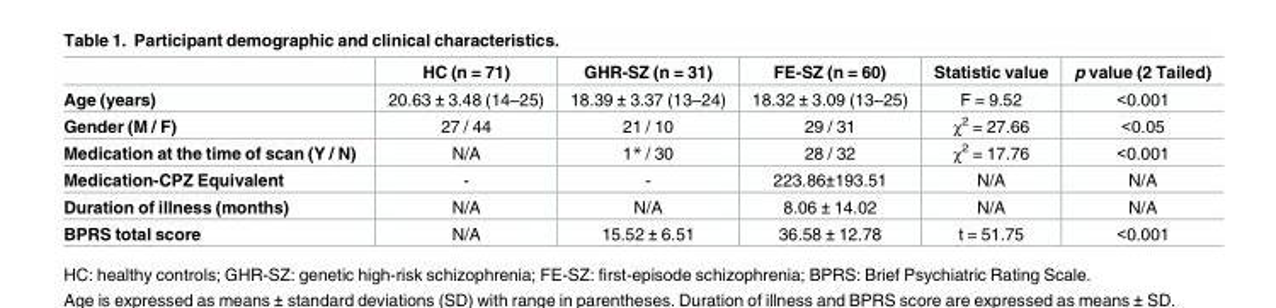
<table><thead><tr><td></td><td>HC (n = 71)</td><td>GHR-SZ (n = 31)</td><td>FE-SZ (n = 60)</td><td>Statistic value</td><td>p value (2 Tailed)</td></tr></thead><tbody><tr><td>Age (years)</td><td>20.63 ± 3.48 (14–25)</td><td>18.39 ± 3.37 (13–24)</td><td>18.32 ± 3.09 (13–25)</td><td>F = 9.52</td><td>&lt;0.001</td></tr><tr><td>Gender (M / F)</td><td>27 / 44</td><td>21 / 10</td><td>29 / 31</td><td>χ<sup>2</sup> = 27.66</td><td>&lt;0.05</td></tr><tr><td>Medication at the time of scan (Y / N)</td><td>N/A</td><td>1* / 30</td><td>28 / 32</td><td>χ<sup>2</sup> = 17.76</td><td>&lt;0.001</td></tr><tr><td>Medication-CPZ Equivalent</td><td>-</td><td>-</td><td>223.86±193.51</td><td>N/A</td><td>N/A</td></tr><tr><td>Duration of illness (months)</td><td>N/A</td><td>N/A</td><td>8.06 ± 14.02</td><td>N/A</td><td>N/A</td></tr><tr><td>BPRS total score</td><td>N/A</td><td>15.52 ± 6.51</td><td>36.58 ± 12.78</td><td>t = 51.75</td><td>&lt;0.001</td></tr></tbody></table>